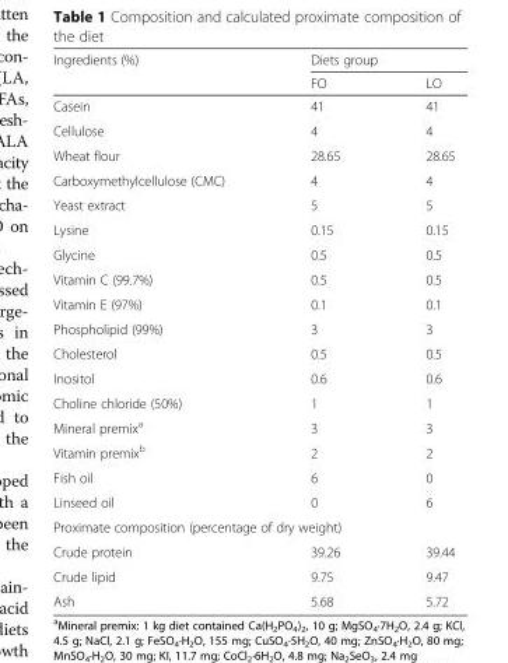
<table><thead><tr><td rowspan="2">Ingredients (%)</td><td colspan="2">Diets group</td></tr><tr><td>FO</td><td>LO</td></tr></thead><tbody><tr><td>Casein</td><td>41</td><td>41</td></tr><tr><td>Cellulose</td><td>4</td><td>4</td></tr><tr><td>Wheat flour</td><td>28.65</td><td>28.65</td></tr><tr><td>Carboxymethylcellulose (CMC)</td><td>4</td><td>4</td></tr><tr><td>Yeast extract</td><td>5</td><td>5</td></tr><tr><td>Lysine</td><td>0.15</td><td>0.15</td></tr><tr><td>Glycine</td><td>0.5</td><td>0.5</td></tr><tr><td>Vitamin C (99.7%)</td><td>0.5</td><td>0.5</td></tr><tr><td>Vitamin E (97%)</td><td>0.1</td><td>0.1</td></tr><tr><td>Phospholipid (99%)</td><td>3</td><td>3</td></tr><tr><td>Cholesterol</td><td>0.5</td><td>0.5</td></tr><tr><td>Inositol</td><td>0.6</td><td>0.6</td></tr><tr><td>Choline chloride (50%)</td><td>1</td><td>1</td></tr><tr><td>Mineral premix<sup>a</sup></td><td>3</td><td>3</td></tr><tr><td>Vitamin premix<sup>b</sup></td><td>2</td><td>2</td></tr><tr><td>Fish oil</td><td>6</td><td>0</td></tr><tr><td>Linseed oil</td><td>0</td><td>6</td></tr><tr><td colspan="3">Proximate composition (percentage of dry weight)</td></tr><tr><td>Crude protein</td><td>39.26</td><td>39.44</td></tr><tr><td>Crude lipid</td><td>9.75</td><td>9.47</td></tr><tr><td>Ash</td><td>5.68</td><td>5.72</td></tr></tbody></table>